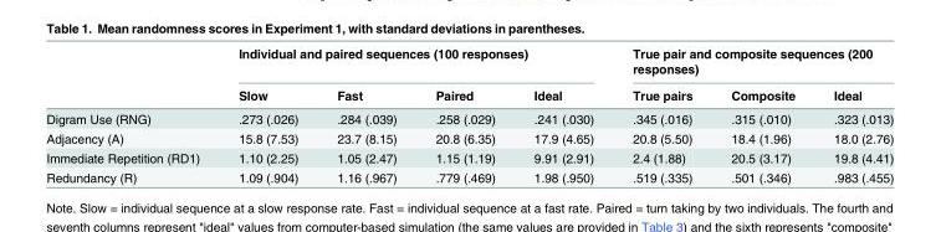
<table><thead><tr><td rowspan="2"></td><td colspan="4">Individual and paired sequences (100 responses)</td><td colspan="3">True pair and composite sequences (200 responses)</td></tr><tr><td>Slow</td><td>Fast</td><td>Paired</td><td>Ideal</td><td>True pairs</td><td>Composite</td><td>Ideal</td></tr></thead><tbody><tr><td>Digram Use (RNG)</td><td>.273 (.026)</td><td>.284 (.039)</td><td>.258 (.029)</td><td>.241 (.030)</td><td>.345 (.016)</td><td>.315 (.010)</td><td>.323 (.013)</td></tr><tr><td>Adjacency (A)</td><td>15.8 (7.53)</td><td>23.7 (8.15)</td><td>20.8 (6.35)</td><td>17.9 (4.65)</td><td>20.8 (5.50)</td><td>18.4 (1.96)</td><td>18.0 (2.76)</td></tr><tr><td>Immediate Repetition (RD1)</td><td>1.10 (2.25)</td><td>1.05 (2.47)</td><td>1.15 (1.19)</td><td>9.91 (2.91)</td><td>2.4 (1.88)</td><td>20.5 (3.17)</td><td>19.8 (4.41)</td></tr><tr><td>Redundancy (R)</td><td>1.09 (.904)</td><td>1.16 (.967)</td><td>.779 (.469)</td><td>1.98 (.950)</td><td>.519 (.335)</td><td>.501 (.346)</td><td>.983 (.455)</td></tr></tbody></table>